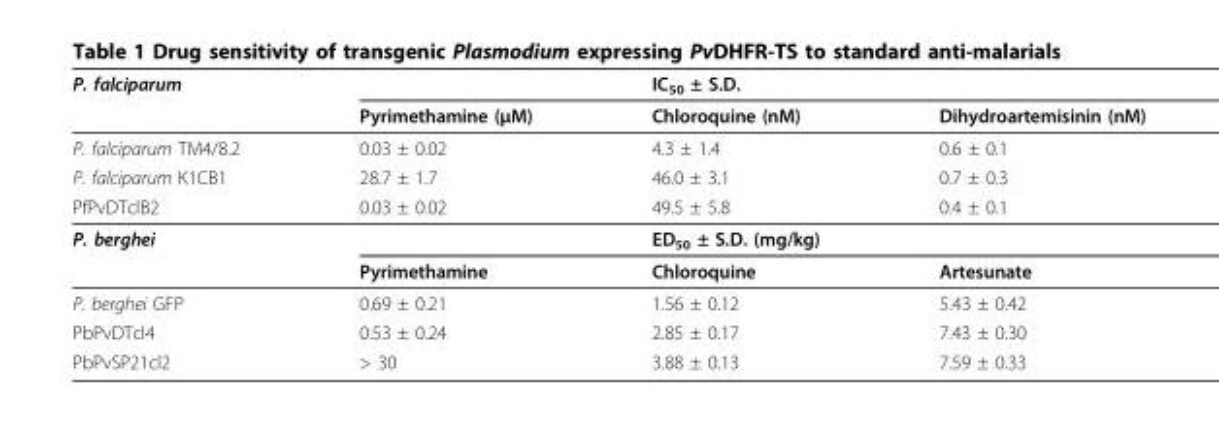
<table><thead><tr><td rowspan="2">P. falciparum</td><td rowspan="2">Pyrimethamine (µM)</td><td rowspan="2">IC<sub>50</sub> ± S.D. Chloroquine (nM)</td><td rowspan="2">Dihydroartemisinin (nM)</td></tr><tr></tr></thead><tbody><tr><td>P. falciparum TM4/8.2</td><td>0.03 ± 0.02</td><td>4.3 ± 1.4</td><td>0.6 ± 0.1</td></tr><tr><td>P. falciparum K1CB1</td><td>28.7 ± 1.7</td><td>46.0 ± 3.1</td><td>0.7 ± 0.3</td></tr><tr><td>PfPvDTclB2</td><td>0.03 ± 0.02</td><td>49.5 ± 5.8</td><td>0.4 ± 0.1</td></tr><tr><td rowspan="2">P. berghei</td><td></td><td>ED<sub>50</sub> ± S.D. (mg/kg)</td><td></td></tr><tr><td>Pyrimethamine</td><td>Chloroquine</td><td>Artesunate</td></tr><tr><td>P. berghei GFP</td><td>0.69 ± 0.21</td><td>1.56 ± 0.12</td><td>5.43 ± 0.42</td></tr><tr><td>PbPvDTcl4</td><td>0.53 ± 0.24</td><td>2.85 ± 0.17</td><td>7.43 ± 0.30</td></tr><tr><td>PbPvSP21cl2</td><td>&gt; 30</td><td>3.88 ± 0.13</td><td>7.59 ± 0.33</td></tr></tbody></table>